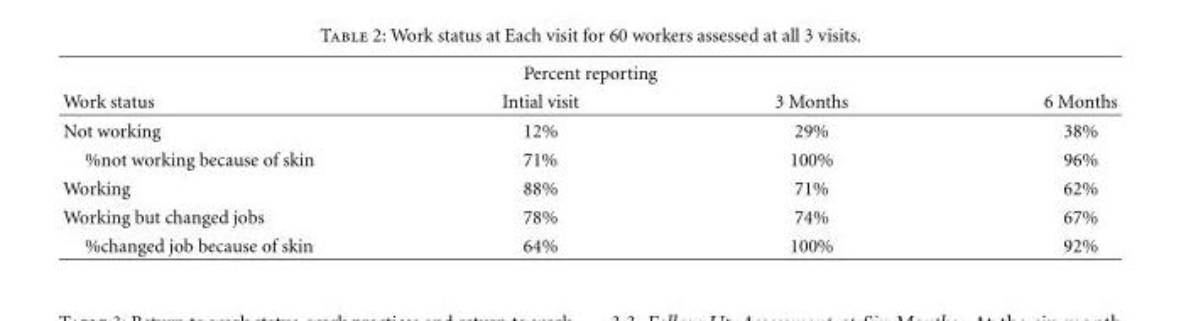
<table><thead><tr><td colspan="4">Percent reporting</td></tr><tr><td>Work status</td><td>Intial visit</td><td>3 Months</td><td>6 Months</td></tr></thead><tbody><tr><td>Not working</td><td>12%</td><td>29%</td><td>38%</td></tr><tr><td>%not working because of skin</td><td>71%</td><td>100%</td><td>96%</td></tr><tr><td>Working</td><td>88%</td><td>71%</td><td>62%</td></tr><tr><td>Working but changed jobs</td><td>78%</td><td>74%</td><td>67%</td></tr><tr><td>%changed job because of skin</td><td>64%</td><td>100%</td><td>92%</td></tr></tbody></table>